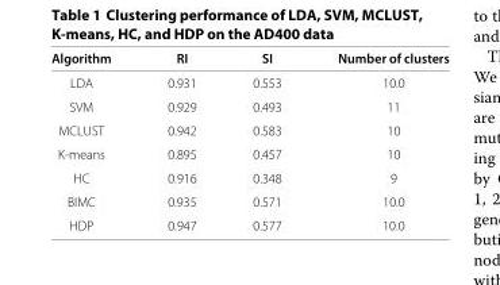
<table><thead><tr><td>Algorithm</td><td>RI</td><td>SI</td><td>Number of clusters</td></tr></thead><tbody><tr><td>LDA</td><td>0.931</td><td>0.553</td><td>10.0</td></tr><tr><td>SVM</td><td>0.929</td><td>0.493</td><td>11</td></tr><tr><td>MCLUST</td><td>0.942</td><td>0.583</td><td>10</td></tr><tr><td>K-means</td><td>0.895</td><td>0.457</td><td>10</td></tr><tr><td>HC</td><td>0.916</td><td>0.348</td><td>9</td></tr><tr><td>BIMC</td><td>0.935</td><td>0.571</td><td>10.0</td></tr><tr><td>HDP</td><td>0.947</td><td>0.577</td><td>10.0</td></tr></tbody></table>